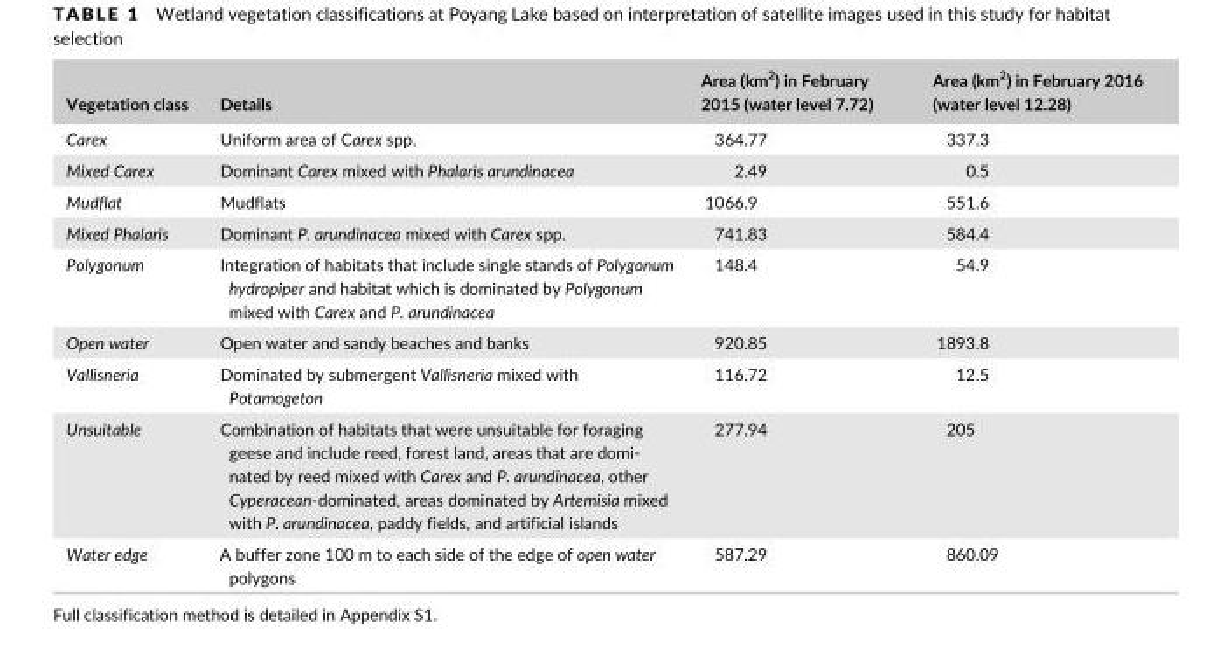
<table><thead><tr><td>Vegetation class</td><td>Details</td><td>Area (km<sup>2</sup>) in February 2015 (water level 7.72)</td><td>Area (km<sup>2</sup>) in February 2016 (water level 12.28)</td></tr></thead><tbody><tr><td>Carex</td><td>Uniform area of Carex spp.</td><td>364.77</td><td>337.3</td></tr><tr><td>Mixed Carex</td><td>Dominant Carex mixed with Phalaris arundinacea</td><td>2.49</td><td>0.5</td></tr><tr><td>Mudflat</td><td>Mudflats</td><td>1066.9</td><td>551.6</td></tr><tr><td>Mixed Phalaris</td><td>Dominant P. arundinacea mixed with Carex spp.</td><td>741.83</td><td>584.4</td></tr><tr><td>Polygonum</td><td>Integration of habitats that include single stands of Polygonum hydropiper and habitat which is dominated by Polygonum mixed with Carex and P. arundinacea</td><td>148.4</td><td>54.9</td></tr><tr><td>Open water</td><td>Open water and sandy beaches and banks</td><td>920.85</td><td>1893.8</td></tr><tr><td>Vallisneria</td><td>Dominated by submergent Vallisneria mixed with Potamogeton</td><td>116.72</td><td>12.5</td></tr><tr><td>Unsuitable</td><td>Combination of habitats that were unsuitable for foraging geese and include reed, forest land, areas that are domi- nated by reed mixed with Carex and P. arundinacea, other Cyperacean- dominated, areas dominated by Artemisia mixed with P. arundinacea, paddy fields, and artificial islands</td><td>277.94</td><td>205</td></tr><tr><td>Water edge</td><td>A buffer zone 100 m to each side of the edge of open water polygons</td><td>587.29</td><td>860.09</td></tr></tbody></table>